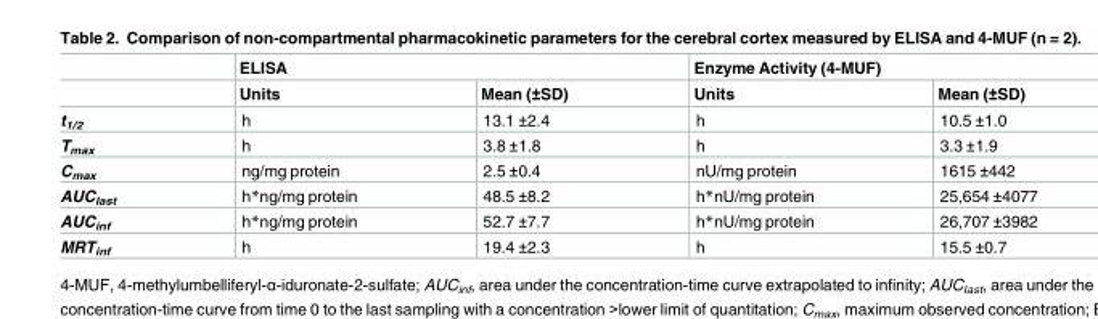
<table><thead><tr><td rowspan="2"></td><td colspan="2">ELISA</td><td colspan="2">Enzyme Activity (4-MUF)</td></tr><tr><td>Units</td><td>Mean (±SD)</td><td>Units</td><td>Mean (±SD)</td></tr></thead><tbody><tr><td>t<sub>1/2</sub></td><td>h</td><td>13.1 ±2.4</td><td>h</td><td>10.5 ±1.0</td></tr><tr><td>T<sub>max</sub></td><td>h</td><td>3.8 ±1.8</td><td>h</td><td>3.3 ±1.9</td></tr><tr><td>C<sub>max</sub></td><td>ng/mg protein</td><td>2.5 ±0.4</td><td>nU/mg protein</td><td>1615 ±442</td></tr><tr><td>AUC<sub>last</sub></td><td>h*ng/mg protein</td><td>48.5 ±8.2</td><td>h*nU/mg protein</td><td>25,654 ±4077</td></tr><tr><td>AUC<sub>inf</sub></td><td>h*ng/mg protein</td><td>52.7 ±7.7</td><td>h*nU/mg protein</td><td>26,707 ±3982</td></tr><tr><td>MRT<sub>inf</sub></td><td>h</td><td>19.4 ±2.3</td><td>h</td><td>15.5 ±0.7</td></tr></tbody></table>